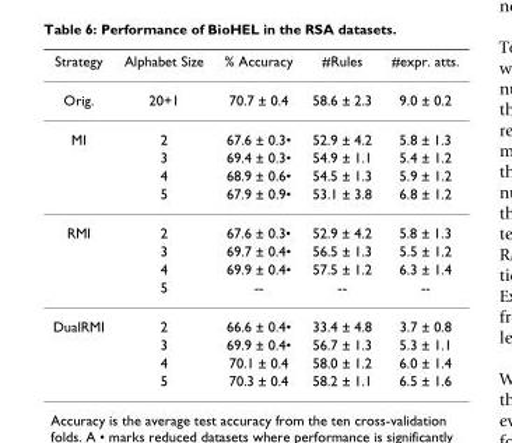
<table><thead><tr><td>Strategy</td><td>Alphabet Size</td><td>% Accuracy</td><td>#Rules</td><td>#expr. atts.</td></tr></thead><tbody><tr><td>Orig.</td><td>20+1</td><td>70.7 ± 0.4</td><td>58.6 ± 2.3</td><td>9.0 ± 0.2</td></tr><tr><td rowspan="4">MI</td><td>2</td><td>67.6 ± 0.3•</td><td>52.9 ± 4.2</td><td>5.8 ± 1.3</td></tr><tr><td>3</td><td>69.4 ± 0.3•</td><td>54.9 ± 1.1</td><td>5.4 ± 1.2</td></tr><tr><td>4</td><td>68.9 ± 0.6•</td><td>54.5 ± 1.3</td><td>5.9 ± 1.2</td></tr><tr><td>5</td><td>67.9 ± 0.9•</td><td>53.1 ± 3.8</td><td>6.8 ± 1.2</td></tr><tr><td rowspan="4">RMI</td><td>2</td><td>67.6 ± 0.3•</td><td>52.9 ± 4.2</td><td>5.8 ± 1.3</td></tr><tr><td>3</td><td>69.7 ± 0.4•</td><td>56.5 ± 1.3</td><td>5.5 ± 1.2</td></tr><tr><td>4</td><td>69.9 ± 0.4•</td><td>57.5 ± 1.2</td><td>6.3 ± 1.4</td></tr><tr><td>5</td><td>--</td><td>--</td><td>--</td></tr><tr><td rowspan="4">DualRMI</td><td>2</td><td>66.6 ± 0.4•</td><td>33.4 ± 4.8</td><td>3.7 ± 0.8</td></tr><tr><td>3</td><td>69.9 ± 0.4•</td><td>56.7 ± 1.3</td><td>5.3 ± 1.1</td></tr><tr><td>4</td><td>70.1 ± 0.4</td><td>58.0 ± 1.2</td><td>6.0 ± 1.4</td></tr><tr><td>5</td><td>70.3 ± 0.4</td><td>58.2 ± 1.1</td><td>6.5 ± 1.6</td></tr></tbody></table>